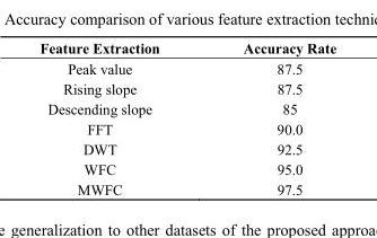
<table><thead><tr><td>Feature Extraction</td><td>Accuracy Rate</td></tr></thead><tbody><tr><td>Peak value</td><td>87.5</td></tr><tr><td>Rising slope</td><td>87.5</td></tr><tr><td>Descending slope</td><td>85</td></tr><tr><td>FFT</td><td>90.0</td></tr><tr><td>DWT</td><td>92.5</td></tr><tr><td>WFC</td><td>95.0</td></tr><tr><td>MWFC</td><td>97.5</td></tr></tbody></table>